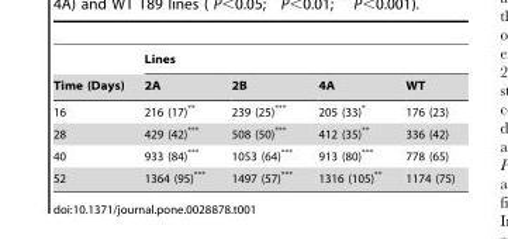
<table><thead><tr><td rowspan="2">Time (Days)</td><td colspan="4">Lines</td></tr><tr><td>2A</td><td>2B</td><td>4A</td><td>WT</td></tr></thead><tbody><tr><td>16</td><td>216 (17)**</td><td>239 (25)***</td><td>205 (33)*</td><td>176 (23)</td></tr><tr><td>28</td><td>429 (42)***</td><td>508 (50)***</td><td>412 (35)**</td><td>336 (42)</td></tr><tr><td>40</td><td>933 (84)***</td><td>1053 (64)***</td><td>913 (80)***</td><td>778 (65)</td></tr><tr><td>52</td><td>1364 (95)***</td><td>1497 (57)***</td><td>1316 (105)**</td><td>1174 (75)</td></tr></tbody></table>